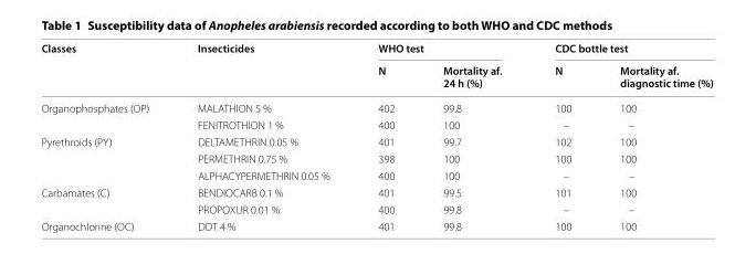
<table><thead><tr><td rowspan="2">Classes</td><td rowspan="2">Insecticides</td><td colspan="2">WHO test</td><td colspan="2">CDC bottle test</td></tr><tr><td>N</td><td>Mortality af. 24 h (%)</td><td>N</td><td>Mortality af. diagnostic time (%)</td></tr></thead><tbody><tr><td rowspan="2">Organophosphates (OP)</td><td>MALATHION 5 %</td><td>402</td><td>99.8</td><td>100</td><td>100</td></tr><tr><td>FENITROTHION 1 %</td><td>400</td><td>100</td><td>–</td><td>–</td></tr><tr><td rowspan="3">Pyrethroids (PY)</td><td>DELTAMETHRIN 0.05 %</td><td>401</td><td>99.7</td><td>102</td><td>100</td></tr><tr><td>PERMETHRIN 0.75 %</td><td>398</td><td>100</td><td>100</td><td>100</td></tr><tr><td>ALPHACYPERMETHRIN 0.05 %</td><td>400</td><td>100</td><td>–</td><td>–</td></tr><tr><td rowspan="2">Carbamates (C)</td><td>BENDIOCARB 0.1 %</td><td>401</td><td>99.5</td><td>101</td><td>100</td></tr><tr><td>PROPOXUR 0.01 %</td><td>400</td><td>99.8</td><td>–</td><td>–</td></tr><tr><td>Organochlorine (OC)</td><td>DDT 4 %</td><td>401</td><td>99.8</td><td>100</td><td>100</td></tr></tbody></table>